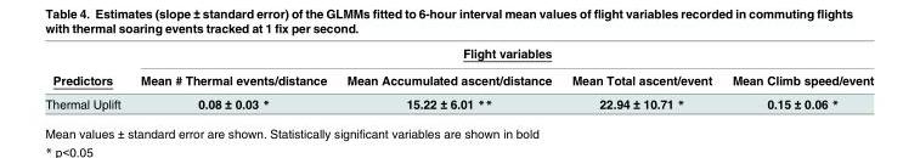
<table><thead><tr><td rowspan="2">Predictors</td><td colspan="4">Flight variables</td></tr><tr><td>Mean # Thermal events/distance</td><td>Mean Accumulated ascent/distance</td><td>Mean Total ascent/event</td><td>Mean Climb speed/event</td></tr></thead><tbody><tr><td>Thermal Uplift</td><td>0.08 ± 0.03 *</td><td>15.22 ± 6.01 **</td><td>22.94 ± 10.71 *</td><td>0.15 ± 0.06 *</td></tr></tbody></table>